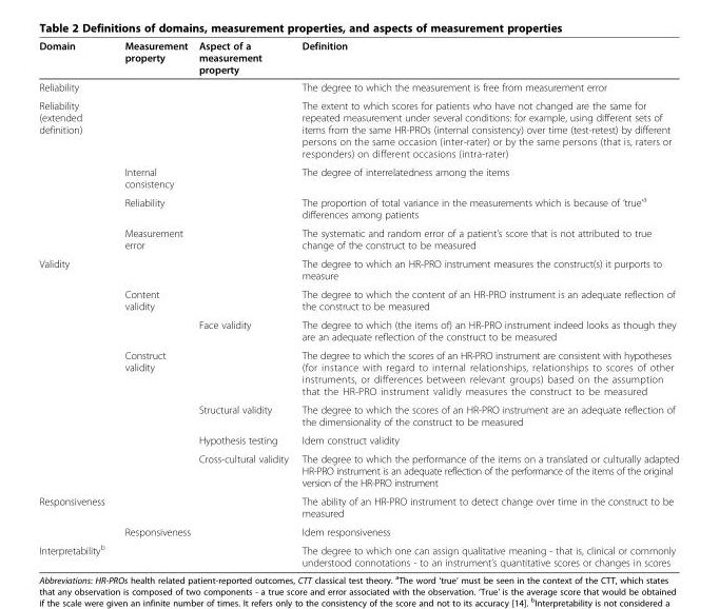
<table><thead><tr><td>Domain</td><td>Measurement property</td><td>Aspect of a measurement property</td><td>Definition</td></tr></thead><tbody><tr><td>Reliability</td><td></td><td></td><td>The degree to which the measurement is free from measurement error</td></tr><tr><td rowspan="4">Reliability (extended definition)</td><td></td><td></td><td>The extent to which scores for patients who have not changed are the same for repeated measurement under several conditions: for example, using different sets of items from the same HR-PROs (internal consistency) over time (test-retest) by different persons on the same occasion (inter-rater) or by the same persons (that is, raters or responders) on different occasions (intra-rater)</td></tr><tr><td>Internal consistency</td><td></td><td>The degree of interrelatedness among the items</td></tr><tr><td>Reliability</td><td></td><td>The proportion of total variance in the measurements which is because of ‘true’<sup>a</sup> differences among patients</td></tr><tr><td>Measurement error</td><td></td><td>The systematic and random error of a patient’s score that is not attributed to true change of the construct to be measured</td></tr><tr><td rowspan="7">Validity</td><td></td><td></td><td>The degree to which an HR-PRO instrument measures the construct(s) it purports to measure</td></tr><tr><td>Content validity</td><td></td><td>The degree to which the content of an HR-PRO instrument is an adequate reflection of the construct to be measured</td></tr><tr><td></td><td>Face validity</td><td>The degree to which (the items of) an HR-PRO instrument indeed looks as though they are an adequate reflection of the construct to be measured</td></tr><tr><td>Construct validity</td><td></td><td>The degree to which the scores of an HR-PRO instrument are consistent with hypotheses (for instance with regard to internal relationships, relationships to scores of other instruments, or differences between relevant groups) based on the assumption that the HR-PRO instrument validly measures the construct to be measured</td></tr><tr><td></td><td>Structural validity</td><td>The degree to which the scores of an HR-PRO instrument are an adequate reflection of the dimensionality of the construct to be measured</td></tr><tr><td></td><td>Hypothesis testing</td><td>Idem construct validity</td></tr><tr><td></td><td>Cross-cultural validity</td><td>The degree to which the performance of the items on a translated or culturally adapted HR-PRO instrument is an adequate reflection of the performance of the items of the original version of the HR-PRO instrument</td></tr><tr><td rowspan="2">Responsiveness</td><td></td><td></td><td>The ability of an HR-PRO instrument to detect change over time in the construct to be measured</td></tr><tr><td>Responsiveness</td><td></td><td>Idem responsiveness</td></tr><tr><td>Interpretability<sup>b</sup></td><td></td><td></td><td>The degree to which one can assign qualitative meaning - that is, clinical or commonly understood connotations - to an instrument’s quantitative scores or changes in scores</td></tr></tbody></table>